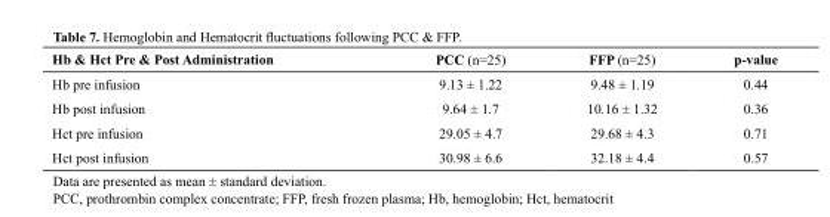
<table><thead><tr><td>Hb &amp; Hct Pre &amp; Post Administration</td><td>PCC (n=25)</td><td>FFP (n=25)</td><td>p-value</td></tr></thead><tbody><tr><td>Hb pre infusion</td><td>9.13 ± 1.22</td><td>9.48 ± 1.19</td><td>0.44</td></tr><tr><td>Hb post infusion</td><td>9.64 ± 1.7</td><td>10.16 ± 1.32</td><td>0.36</td></tr><tr><td>Hct pre infusion</td><td>29.05 ± 4.7</td><td>29.68 ± 4.3</td><td>0.71</td></tr><tr><td>Hct post infusion</td><td>30.98 ± 6.6</td><td>32.18 ± 4.4</td><td>0.57</td></tr></tbody></table>